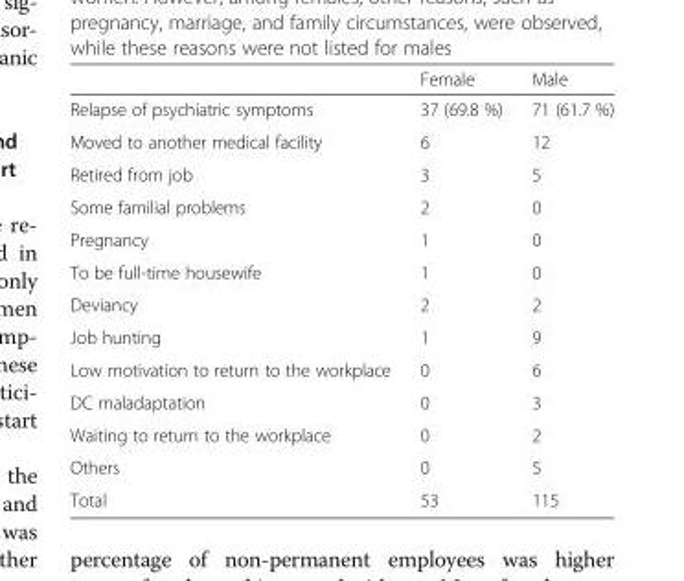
<table><thead><tr><td></td><td>Female</td><td>Male</td></tr></thead><tbody><tr><td>Relapse of psychiatric symptoms</td><td>37 (69.8 %)</td><td>71 (61.7 %)</td></tr><tr><td>Moved to another medical facility</td><td>6</td><td>12</td></tr><tr><td>Retired from job</td><td>3</td><td>5</td></tr><tr><td>Some familial problems</td><td>2</td><td>0</td></tr><tr><td>Pregnancy</td><td>1</td><td>0</td></tr><tr><td>To be full-time housewife</td><td>1</td><td>0</td></tr><tr><td>Deviancy</td><td>2</td><td>2</td></tr><tr><td>Job hunting</td><td>1</td><td>9</td></tr><tr><td>Low motivation to return to the workplace</td><td>0</td><td>6</td></tr><tr><td>DC maladaptation</td><td>0</td><td>3</td></tr><tr><td>Waiting to return to the workplace</td><td>0</td><td>2</td></tr><tr><td>Others</td><td>0</td><td>5</td></tr><tr><td>Total</td><td>53</td><td>115</td></tr></tbody></table>